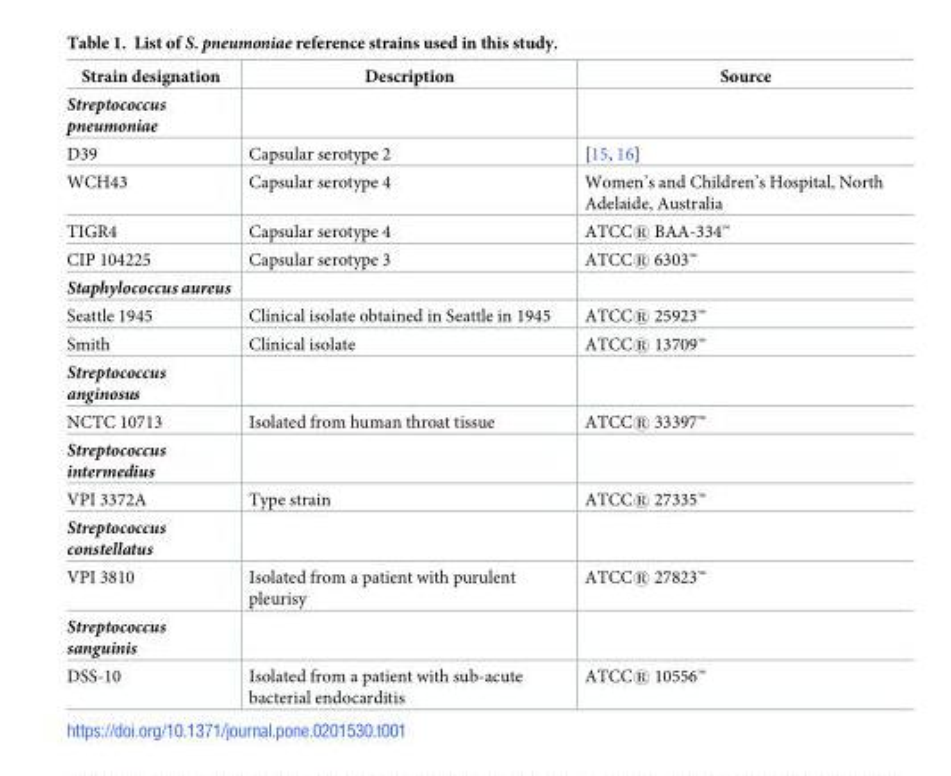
<table><thead><tr><td>Strain designation</td><td>Description</td><td>Source</td></tr></thead><tbody><tr><td colspan="3">Streptococcus pneumoniae</td></tr><tr><td>D39</td><td>Capsular serotype 2</td><td>[15, 16]</td></tr><tr><td>WCH43</td><td>Capsular serotype 4</td><td>Women’s and Children’s Hospital, North Adelaide, Australia</td></tr><tr><td>TIGR4</td><td>Capsular serotype 4</td><td>ATCC® BAA-334™</td></tr><tr><td>CIP 104225</td><td>Capsular serotype 3</td><td>ATCC® 6303™</td></tr><tr><td colspan="3">Staphylococcus aureus</td></tr><tr><td>Seattle 1945</td><td>Clinical isolate obtained in Seattle in 1945</td><td>ATCC® 25923™</td></tr><tr><td>Smith</td><td>Clinical isolate</td><td>ATCC® 13709™</td></tr><tr><td colspan="3">Streptococcus anginosus</td></tr><tr><td>NCTC 10713</td><td>Isolated from human throat tissue</td><td>ATCC® 33397™</td></tr><tr><td colspan="3">Streptococcus intermedius</td></tr><tr><td>VPI 3372A</td><td>Type strain</td><td>ATCC® 27335™</td></tr><tr><td colspan="3">Streptococcus constellatus</td></tr><tr><td>VPI 3810</td><td>Isolated from a patient with purulent pleurisy</td><td>ATCC® 27823™</td></tr><tr><td colspan="3">Streptococcus sanguinis</td></tr><tr><td>DSS-10</td><td>Isolated from a patient with sub-acute bacterial endocarditis</td><td>ATCC® 10556™</td></tr></tbody></table>